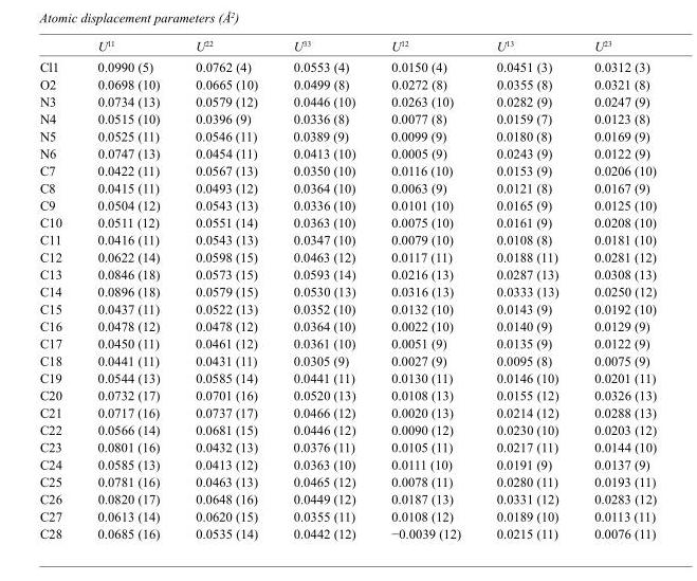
<table><thead><tr><td></td><td>U<sup>11</sup></td><td>U<sup>22</sup></td><td>U<sup>33</sup></td><td>U<sup>12</sup></td><td>U<sup>13</sup></td><td>U<sup>23</sup></td></tr></thead><tbody><tr><td>Cl1</td><td>0.0990 (5)</td><td>0.0762 (4)</td><td>0.0553 (4)</td><td>0.0150 (4)</td><td>0.0451 (3)</td><td>0.0312 (3)</td></tr><tr><td>O2</td><td>0.0698 (10)</td><td>0.0665 (10)</td><td>0.0499 (8)</td><td>0.0272 (8)</td><td>0.0355 (8)</td><td>0.0321 (8)</td></tr><tr><td>N3</td><td>0.0734 (13)</td><td>0.0579 (12)</td><td>0.0446 (10)</td><td>0.0263 (10)</td><td>0.0282 (9)</td><td>0.0247 (9)</td></tr><tr><td>N4</td><td>0.0515 (10)</td><td>0.0396 (9)</td><td>0.0336 (8)</td><td>0.0077 (8)</td><td>0.0159 (7)</td><td>0.0123 (8)</td></tr><tr><td>N5</td><td>0.0525 (11)</td><td>0.0546 (11)</td><td>0.0389 (9)</td><td>0.0099 (9)</td><td>0.0180 (8)</td><td>0.0169 (9)</td></tr><tr><td>N6</td><td>0.0747 (13)</td><td>0.0454 (11)</td><td>0.0413 (10)</td><td>0.0005 (9)</td><td>0.0243 (9)</td><td>0.0122 (9)</td></tr><tr><td>C7</td><td>0.0422 (11)</td><td>0.0567 (13)</td><td>0.0350 (10)</td><td>0.0116 (10)</td><td>0.0153 (9)</td><td>0.0206 (10)</td></tr><tr><td>C8</td><td>0.0415 (11)</td><td>0.0493 (12)</td><td>0.0364 (10)</td><td>0.0063 (9)</td><td>0.0121 (8)</td><td>0.0167 (9)</td></tr><tr><td>C9</td><td>0.0504 (12)</td><td>0.0543 (13)</td><td>0.0336 (10)</td><td>0.0101 (10)</td><td>0.0165 (9)</td><td>0.0125 (10)</td></tr><tr><td>C10</td><td>0.0511 (12)</td><td>0.0551 (14)</td><td>0.0363 (10)</td><td>0.0075 (10)</td><td>0.0161 (9)</td><td>0.0208 (10)</td></tr><tr><td>C11</td><td>0.0416 (11)</td><td>0.0543 (13)</td><td>0.0347 (10)</td><td>0.0079 (10)</td><td>0.0108 (8)</td><td>0.0181 (10)</td></tr><tr><td>C12</td><td>0.0622 (14)</td><td>0.0598 (15)</td><td>0.0463 (12)</td><td>0.0117 (11)</td><td>0.0188 (11)</td><td>0.0281 (12)</td></tr><tr><td>C13</td><td>0.0846 (18)</td><td>0.0573 (15)</td><td>0.0593 (14)</td><td>0.0216 (13)</td><td>0.0287 (13)</td><td>0.0308 (13)</td></tr><tr><td>C14</td><td>0.0896 (18)</td><td>0.0579 (15)</td><td>0.0530 (13)</td><td>0.0316 (13)</td><td>0.0333 (13)</td><td>0.0250 (12)</td></tr><tr><td>C15</td><td>0.0437 (11)</td><td>0.0522 (13)</td><td>0.0352 (10)</td><td>0.0132 (10)</td><td>0.0143 (9)</td><td>0.0192 (10)</td></tr><tr><td>C16</td><td>0.0478 (12)</td><td>0.0478 (12)</td><td>0.0364 (10)</td><td>0.0022 (10)</td><td>0.0140 (9)</td><td>0.0129 (9)</td></tr><tr><td>C17</td><td>0.0450 (11)</td><td>0.0461 (12)</td><td>0.0361 (10)</td><td>0.0051 (9)</td><td>0.0135 (9)</td><td>0.0122 (9)</td></tr><tr><td>C18</td><td>0.0441 (11)</td><td>0.0431 (11)</td><td>0.0305 (9)</td><td>0.0027 (9)</td><td>0.0095 (8)</td><td>0.0075 (9)</td></tr><tr><td>C19</td><td>0.0544 (13)</td><td>0.0585 (14)</td><td>0.0441 (11)</td><td>0.0130 (11)</td><td>0.0146 (10)</td><td>0.0201 (11)</td></tr><tr><td>C20</td><td>0.0732 (17)</td><td>0.0701 (16)</td><td>0.0520 (13)</td><td>0.0108 (13)</td><td>0.0155 (12)</td><td>0.0326 (13)</td></tr><tr><td>C21</td><td>0.0717 (16)</td><td>0.0737 (17)</td><td>0.0466 (12)</td><td>0.0020 (13)</td><td>0.0214 (12)</td><td>0.0288 (13)</td></tr><tr><td>C22</td><td>0.0566 (14)</td><td>0.0681 (15)</td><td>0.0446 (12)</td><td>0.0090 (12)</td><td>0.0230 (10)</td><td>0.0203 (12)</td></tr><tr><td>C23</td><td>0.0801 (16)</td><td>0.0432 (13)</td><td>0.0376 (11)</td><td>0.0105 (11)</td><td>0.0217 (11)</td><td>0.0144 (10)</td></tr><tr><td>C24</td><td>0.0585 (13)</td><td>0.0413 (12)</td><td>0.0363 (10)</td><td>0.0111 (10)</td><td>0.0191 (9)</td><td>0.0137 (9)</td></tr><tr><td>C25</td><td>0.0781 (16)</td><td>0.0463 (13)</td><td>0.0465 (12)</td><td>0.0078 (11)</td><td>0.0280 (11)</td><td>0.0193 (11)</td></tr><tr><td>C26</td><td>0.0820 (17)</td><td>0.0648 (16)</td><td>0.0449 (12)</td><td>0.0187 (13)</td><td>0.0331 (12)</td><td>0.0283 (12)</td></tr><tr><td>C27</td><td>0.0613 (14)</td><td>0.0620 (15)</td><td>0.0355 (11)</td><td>0.0108 (12)</td><td>0.0189 (10)</td><td>0.0113 (11)</td></tr><tr><td>C28</td><td>0.0685 (16)</td><td>0.0535 (14)</td><td>0.0442 (12)</td><td>−0.0039 (12)</td><td>0.0215 (11)</td><td>0.0076 (11)</td></tr></tbody></table>